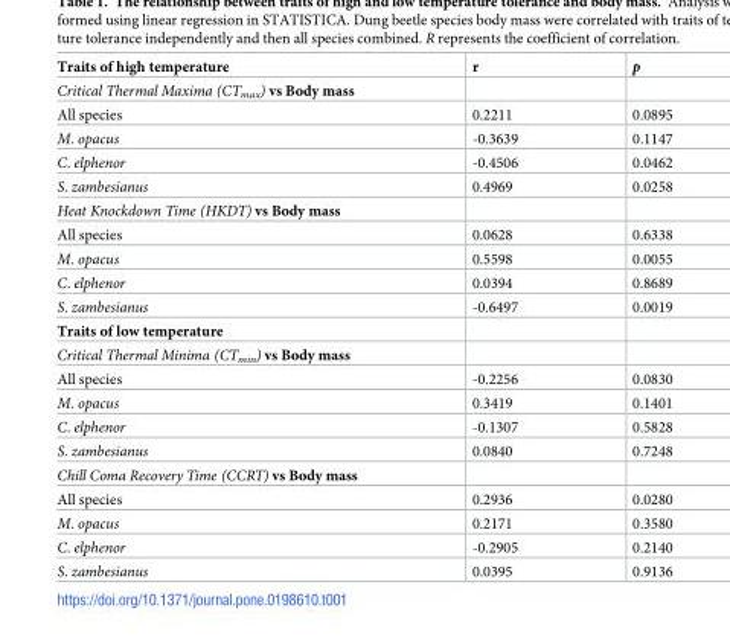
<table><tbody><tr><td>Traits of high temperature</td><td>r</td><td>p</td></tr><tr><td colspan="3">Critical Thermal Maxima (CT<sub>max</sub>) vs Body mass</td></tr><tr><td>All species</td><td>0.2211</td><td>0.0895</td></tr><tr><td>M. opacus</td><td>-0.3639</td><td>0.1147</td></tr><tr><td>C. elphenor</td><td>-0.4506</td><td>0.0462</td></tr><tr><td>S. zambesianus</td><td>0.4969</td><td>0.0258</td></tr><tr><td colspan="3">Heat Knockdown Time (HKDT) vs Body mass</td></tr><tr><td>All species</td><td>0.0628</td><td>0.6338</td></tr><tr><td>M. opacus</td><td>0.5598</td><td>0.0055</td></tr><tr><td>C. elphenor</td><td>0.0394</td><td>0.8689</td></tr><tr><td>S. zambesianus</td><td>-0.6497</td><td>0.0019</td></tr><tr><td colspan="3">Traits of low temperature</td></tr><tr><td colspan="3">Critical Thermal Minima (CT<sub>min</sub>) vs Body mass</td></tr><tr><td>All species</td><td>-0.2256</td><td>0.0830</td></tr><tr><td>M. opacus</td><td>0.3419</td><td>0.1401</td></tr><tr><td>C. elphenor</td><td>-0.1307</td><td>0.5828</td></tr><tr><td>S. zambesianus</td><td>0.0840</td><td>0.7248</td></tr><tr><td colspan="3">Chill Coma Recovery Time (CCRT) vs Body mass</td></tr><tr><td>All species</td><td>0.2936</td><td>0.0280</td></tr><tr><td>M. opacus</td><td>0.2171</td><td>0.3580</td></tr><tr><td>C. elphenor</td><td>-0.2905</td><td>0.2140</td></tr><tr><td>S. zambesianus</td><td>0.0395</td><td>0.9136</td></tr></tbody></table>